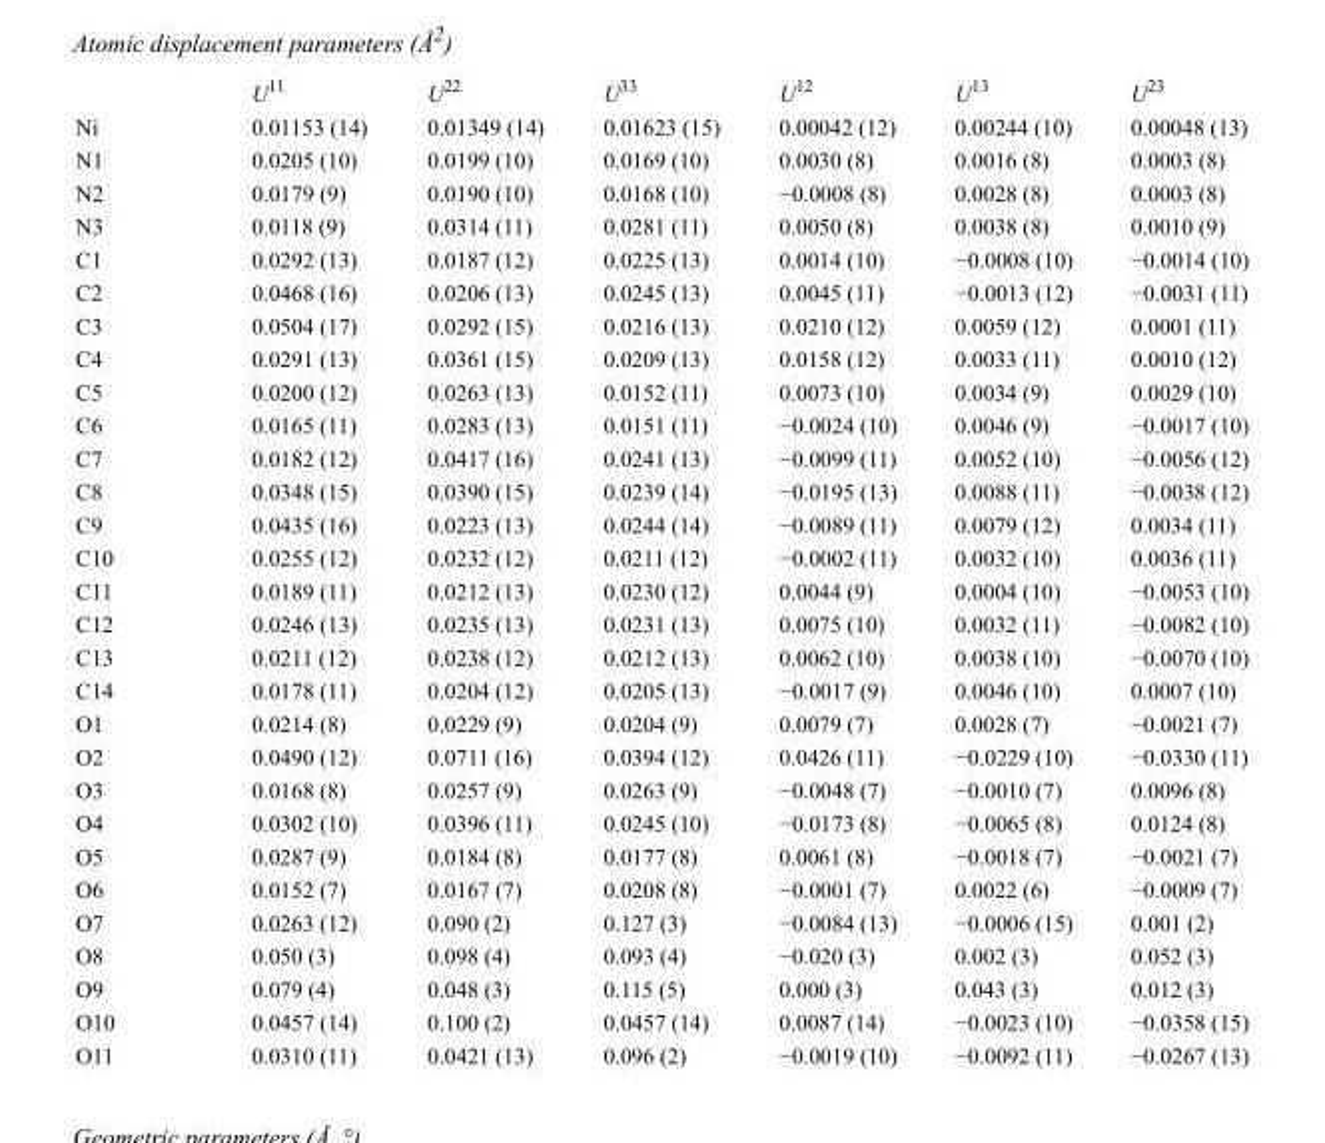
<table><thead><tr><td></td><td>U<sup>11</sup></td><td>U<sup>22</sup></td><td>U<sup>33</sup></td><td>U<sup>12</sup></td><td>U<sup>13</sup></td><td>U<sup>23</sup></td></tr></thead><tbody><tr><td>Ni</td><td>0.01153 (14)</td><td>0.01349 (14)</td><td>0.01623 (15)</td><td>0.00042 (12)</td><td>0.00244 (10)</td><td>0.00048 (13)</td></tr><tr><td>N1</td><td>0.0205 (10)</td><td>0.0199 (10)</td><td>0.0169 (10)</td><td>0.0030 (8)</td><td>0.0016 (8)</td><td>0.0003 (8)</td></tr><tr><td>N2</td><td>0.0179 (9)</td><td>0.0190 (10)</td><td>0.0168 (10)</td><td>−0.0008 (8)</td><td>0.0028 (8)</td><td>0.0003 (8)</td></tr><tr><td>N3</td><td>0.0118 (9)</td><td>0.0314 (11)</td><td>0.0281 (11)</td><td>0.0050 (8)</td><td>0.0038 (8)</td><td>0.0010 (9)</td></tr><tr><td>C1</td><td>0.0292 (13)</td><td>0.0187 (12)</td><td>0.0225 (13)</td><td>0.0014 (10)</td><td>−0.0008 (10)</td><td>−0.0014 (10)</td></tr><tr><td>C2</td><td>0.0468 (16)</td><td>0.0206 (13)</td><td>0.0245 (13)</td><td>0.0045 (11)</td><td>−0.0013 (12)</td><td>−0.0031 (11)</td></tr><tr><td>C3</td><td>0.0504 (17)</td><td>0.0292 (15)</td><td>0.0216 (13)</td><td>0.0210 (12)</td><td>0.0059 (12)</td><td>0.0001 (11)</td></tr><tr><td>C4</td><td>0.0291 (13)</td><td>0.0361 (15)</td><td>0.0209 (13)</td><td>0.0158 (12)</td><td>0.0033 (11)</td><td>0.0010 (12)</td></tr><tr><td>C5</td><td>0.0200 (12)</td><td>0.0263 (13)</td><td>0.0152 (11)</td><td>0.0073 (10)</td><td>0.0034 (9)</td><td>0.0029 (10)</td></tr><tr><td>C6</td><td>0.0165 (11)</td><td>0.0283 (13)</td><td>0.0151 (11)</td><td>−0.0024 (10)</td><td>0.0046 (9)</td><td>−0.0017 (10)</td></tr><tr><td>C7</td><td>0.0182 (12)</td><td>0.0417 (16)</td><td>0.0241 (13)</td><td>−0.0099 (11)</td><td>0.0052 (10)</td><td>−0.0056 (12)</td></tr><tr><td>C8</td><td>0.0348 (15)</td><td>0.0390 (15)</td><td>0.0239 (14)</td><td>−0.0195 (13)</td><td>0.0088 (11)</td><td>−0.0038 (12)</td></tr><tr><td>C9</td><td>0.0435 (16)</td><td>0.0223 (13)</td><td>0.0244 (14)</td><td>−0.0089 (11)</td><td>0.0079 (12)</td><td>0.0034 (11)</td></tr><tr><td>C10</td><td>0.0255 (12)</td><td>0.0232 (12)</td><td>0.0211 (12)</td><td>−0.0002 (11)</td><td>0.0032 (10)</td><td>0.0036 (11)</td></tr><tr><td>C11</td><td>0.0189 (11)</td><td>0.0212 (13)</td><td>0.0230 (12)</td><td>0.0044 (9)</td><td>0.0004 (10)</td><td>−0.0053 (10)</td></tr><tr><td>C12</td><td>0.0246 (13)</td><td>0.0235 (13)</td><td>0.0231 (13)</td><td>0.0075 (10)</td><td>0.0032 (11)</td><td>−0.0082 (10)</td></tr><tr><td>C13</td><td>0.0211 (12)</td><td>0.0238 (12)</td><td>0.0212 (13)</td><td>0.0062 (10)</td><td>0.0038 (10)</td><td>−0.0070 (10)</td></tr><tr><td>C14</td><td>0.0178 (11)</td><td>0.0204 (12)</td><td>0.0205 (13)</td><td>−0.0017 (9)</td><td>0.0046 (10)</td><td>0.0007 (10)</td></tr><tr><td>O1</td><td>0.0214 (8)</td><td>0.0229 (9)</td><td>0.0204 (9)</td><td>0.0079 (7)</td><td>0.0028 (7)</td><td>−0.0021 (7)</td></tr><tr><td>O2</td><td>0.0490 (12)</td><td>0.0711 (16)</td><td>0.0394 (12)</td><td>0.0426 (11)</td><td>−0.0229 (10)</td><td>−0.0330 (11)</td></tr><tr><td>O3</td><td>0.0168 (8)</td><td>0.0257 (9)</td><td>0.0263 (9)</td><td>−0.0048 (7)</td><td>−0.0010 (7)</td><td>0.0096 (8)</td></tr><tr><td>O4</td><td>0.0302 (10)</td><td>0.0396 (11)</td><td>0.0245 (10)</td><td>−0.0173 (8)</td><td>−0.0065 (8)</td><td>0.0124 (8)</td></tr><tr><td>O5</td><td>0.0287 (9)</td><td>0.0184 (8)</td><td>0.0177 (8)</td><td>0.0061 (8)</td><td>−0.0018 (7)</td><td>−0.0021 (7)</td></tr><tr><td>O6</td><td>0.0152 (7)</td><td>0.0167 (7)</td><td>0.0208 (8)</td><td>−0.0001 (7)</td><td>0.0022 (6)</td><td>−0.0009 (7)</td></tr><tr><td>O7</td><td>0.0263 (12)</td><td>0.090 (2)</td><td>0.127 (3)</td><td>−0.0084 (13)</td><td>−0.0006 (15)</td><td>0.001 (2)</td></tr><tr><td>O8</td><td>0.050 (3)</td><td>0.098 (4)</td><td>0.093 (4)</td><td>−0.020 (3)</td><td>0.002 (3)</td><td>0.052 (3)</td></tr><tr><td>O9</td><td>0.079 (4)</td><td>0.048 (3)</td><td>0.115 (5)</td><td>0.000 (3)</td><td>0.043 (3)</td><td>0.012 (3)</td></tr><tr><td>O10</td><td>0.0457 (14)</td><td>0.100 (2)</td><td>0.0457 (14)</td><td>0.0087 (14)</td><td>−0.0023 (10)</td><td>−0.0358 (15)</td></tr><tr><td>O11</td><td>0.0310 (11)</td><td>0.0421 (13)</td><td>0.096 (2)</td><td>−0.0019 (10)</td><td>−0.0092 (11)</td><td>−0.0267 (13)</td></tr></tbody></table>